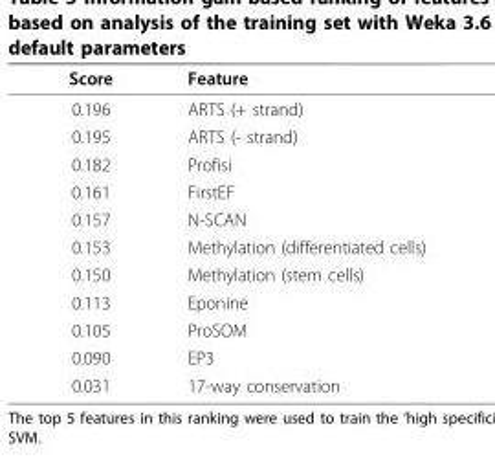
<table><thead><tr><td>Score</td><td>Feature</td></tr></thead><tbody><tr><td>0.196</td><td>ARTS (+ strand)</td></tr><tr><td>0.195</td><td>ARTS (- strand)</td></tr><tr><td>0.182</td><td>Profisi</td></tr><tr><td>0.161</td><td>FirstEF</td></tr><tr><td>0.157</td><td>N-SCAN</td></tr><tr><td>0.153</td><td>Methylation (differentiated cells)</td></tr><tr><td>0.150</td><td>Methylation (stem cells)</td></tr><tr><td>0.113</td><td>Eponine</td></tr><tr><td>0.105</td><td>ProSOM</td></tr><tr><td>0.090</td><td>EP3</td></tr><tr><td>0.031</td><td>17-way conservation</td></tr></tbody></table>